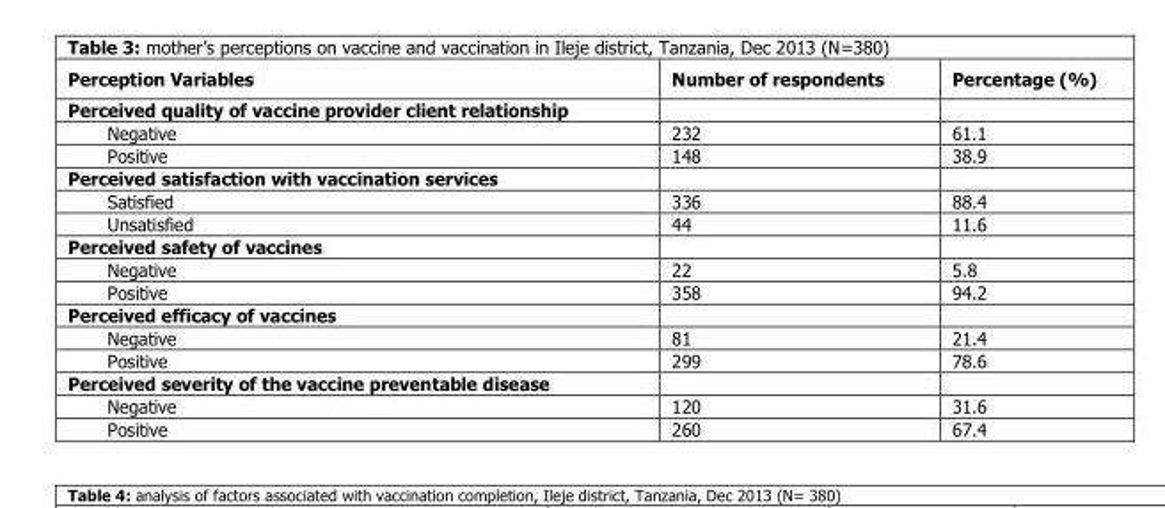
<table><thead><tr><td>Perception Variables</td><td>Number of respondents</td><td>Percentage (%)</td></tr></thead><tbody><tr><td colspan="3">Perceived quality of vaccine provider client relationship</td></tr><tr><td>Negative</td><td>232</td><td>61.1</td></tr><tr><td>Positive</td><td>148</td><td>38.9</td></tr><tr><td colspan="3">Perceived satisfaction with vaccination services</td></tr><tr><td>Satisfied</td><td>336</td><td>88.4</td></tr><tr><td>Unsatisfied</td><td>44</td><td>11.6</td></tr><tr><td colspan="3">Perceived safety of vaccines</td></tr><tr><td>Negative</td><td>22</td><td>5.8</td></tr><tr><td>Positive</td><td>358</td><td>94.2</td></tr><tr><td colspan="3">Perceived efficacy of vaccines</td></tr><tr><td>Negative</td><td>81</td><td>21.4</td></tr><tr><td>Positive</td><td>299</td><td>78.6</td></tr><tr><td colspan="3">Perceived severity of the vaccine preventable disease</td></tr><tr><td>Negative</td><td>120</td><td>31.6</td></tr><tr><td>Positive</td><td>260</td><td>67.4</td></tr></tbody></table>